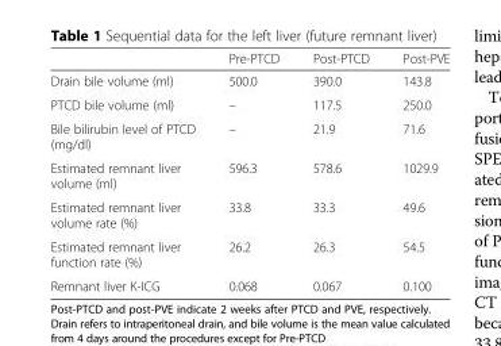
<table><thead><tr><td></td><td>Pre-PTCD</td><td>Post-PTCD</td><td>Post-PVE</td></tr></thead><tbody><tr><td>Drain bile volume (ml)</td><td>500.0</td><td>390.0</td><td>143.8</td></tr><tr><td>PTCD bile volume (ml)</td><td>–</td><td>117.5</td><td>250.0</td></tr><tr><td>Bile bilirubin level of PTCD (mg/dl)</td><td>–</td><td>21.9</td><td>71.6</td></tr><tr><td>Estimated remnant liver volume (ml)</td><td>596.3</td><td>578.6</td><td>1029.9</td></tr><tr><td>Estimated remnant liver volume rate (%)</td><td>33.8</td><td>33.3</td><td>49.6</td></tr><tr><td>Estimated remnant liver function rate (%)</td><td>26.2</td><td>26.3</td><td>54.5</td></tr><tr><td>Remnant liver K-ICG</td><td>0.068</td><td>0.067</td><td>0.100</td></tr></tbody></table>